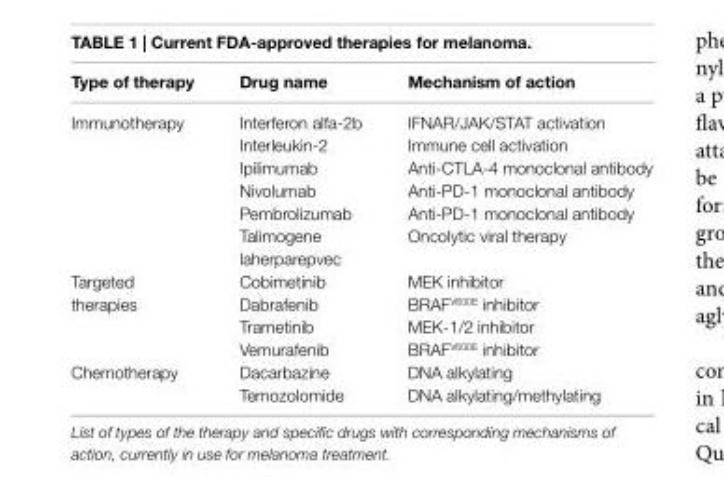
<table><thead><tr><td>Type of therapy</td><td>Drug name</td><td>Mechanism of action</td></tr></thead><tbody><tr><td rowspan="6">Immunotherapy</td><td>Interferon alfa-2b</td><td>IFNAR/JAK/STAT activation</td></tr><tr><td>Interleukin-2</td><td>Immune cell activation</td></tr><tr><td>Ipilimumab</td><td>Anti-CTLA-4 monoclonal antibody</td></tr><tr><td>Nivolumab</td><td>Anti-PD-1 monoclonal antibody</td></tr><tr><td>Pembrolizumab</td><td>Anti-PD-1 monoclonal antibody</td></tr><tr><td>Talimogene laherparepvec</td><td>Oncolytic viral therapy</td></tr><tr><td rowspan="4">Targeted therapies</td><td>Cobimetinib</td><td>MEK inhibitor</td></tr><tr><td>Dabrafenib</td><td>BRAF<sup>V600E</sup> inhibitor</td></tr><tr><td>Trametinib</td><td>MEK-1/2 inhibitor</td></tr><tr><td>Vemurafenib</td><td>BRAF<sup>V600E</sup> inhibitor</td></tr><tr><td rowspan="2">Chemotherapy</td><td>Dacarbazine</td><td>DNA alkylating</td></tr><tr><td>Temozolomide</td><td>DNA alkylating/methylating</td></tr></tbody></table>